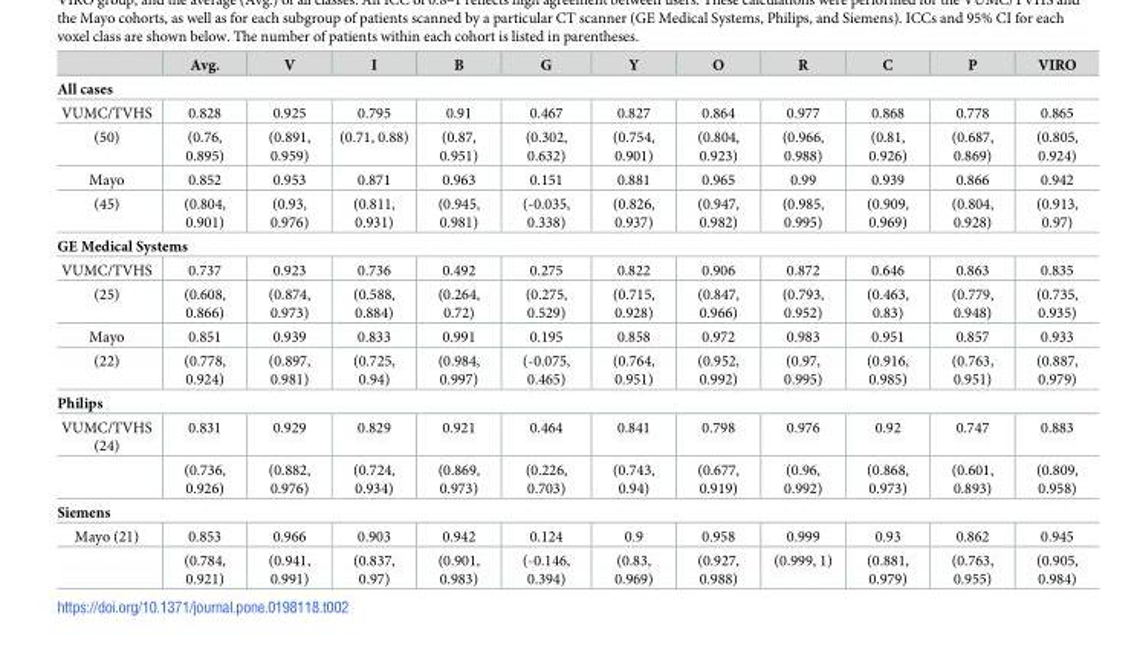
<table><thead><tr><td></td><td>Avg.</td><td>V</td><td>I</td><td>B</td><td>G</td><td>Y</td><td>O</td><td>R</td><td>C</td><td>P</td><td>VIRO</td></tr></thead><tbody><tr><td colspan="12">All cases</td></tr><tr><td>VUMC/TVHS</td><td>0.828</td><td>0.925</td><td>0.795</td><td>0.91</td><td>0.467</td><td>0.827</td><td>0.864</td><td>0.977</td><td>0.868</td><td>0.778</td><td>0.865</td></tr><tr><td>(50)</td><td>(0.76, 0.895)</td><td>(0.891, 0.959)</td><td>(0.71, 0.88)</td><td>(0.87, 0.951)</td><td>(0.302, 0.632)</td><td>(0.754, 0.901)</td><td>(0.804, 0.923)</td><td>(0.966, 0.988)</td><td>(0.81, 0.926)</td><td>(0.687, 0.869)</td><td>(0.805, 0.924)</td></tr><tr><td>Mayo</td><td>0.852</td><td>0.953</td><td>0.871</td><td>0.963</td><td>0.151</td><td>0.881</td><td>0.965</td><td>0.99</td><td>0.939</td><td>0.866</td><td>0.942</td></tr><tr><td>(45)</td><td>(0.804, 0.901)</td><td>(0.93, 0.976)</td><td>(0.811, 0.931)</td><td>(0.945, 0.981)</td><td>(-0.035, 0.338)</td><td>(0.826, 0.937)</td><td>(0.947, 0.982)</td><td>(0.985, 0.995)</td><td>(0.909, 0.969)</td><td>(0.804, 0.928)</td><td>(0.913, 0.97)</td></tr><tr><td colspan="12">GE Medical Systems</td></tr><tr><td>VUMC/TVHS</td><td>0.737</td><td>0.923</td><td>0.736</td><td>0.492</td><td>0.275</td><td>0.822</td><td>0.906</td><td>0.872</td><td>0.646</td><td>0.863</td><td>0.835</td></tr><tr><td>(25)</td><td>(0.608, 0.866)</td><td>(0.874, 0.973)</td><td>(0.588, 0.884)</td><td>(0.264, 0.72)</td><td>(0.275, 0.529)</td><td>(0.715, 0.928)</td><td>(0.847, 0.966)</td><td>(0.793, 0.952)</td><td>(0.463, 0.83)</td><td>(0.779, 0.948)</td><td>(0.735, 0.935)</td></tr><tr><td>Mayo</td><td>0.851</td><td>0.939</td><td>0.833</td><td>0.991</td><td>0.195</td><td>0.858</td><td>0.972</td><td>0.983</td><td>0.951</td><td>0.857</td><td>0.933</td></tr><tr><td>(22)</td><td>(0.778, 0.924)</td><td>(0.897, 0.981)</td><td>(0.725, 0.94)</td><td>(0.984, 0.997)</td><td>(-0.075, 0.465)</td><td>(0.764, 0.951)</td><td>(0.952, 0.992)</td><td>(0.97, 0.995)</td><td>(0.916, 0.985)</td><td>(0.763, 0.951)</td><td>(0.887, 0.979)</td></tr><tr><td colspan="12">Philips</td></tr><tr><td rowspan="2">VUMC/TVHS (24)</td><td>0.831</td><td>0.929</td><td>0.829</td><td>0.921</td><td>0.464</td><td>0.841</td><td>0.798</td><td>0.976</td><td>0.92</td><td>0.747</td><td>0.883</td></tr><tr><td>(0.736, 0.926)</td><td>(0.882, 0.976)</td><td>(0.724, 0.934)</td><td>(0.869, 0.973)</td><td>(0.226, 0.703)</td><td>(0.743, 0.94)</td><td>(0.677, 0.919)</td><td>(0.96, 0.992)</td><td>(0.868, 0.973)</td><td>(0.601, 0.893)</td><td>(0.809, 0.958)</td></tr><tr><td colspan="12">Siemens</td></tr><tr><td rowspan="2">Mayo (21)</td><td>0.853</td><td>0.966</td><td>0.903</td><td>0.942</td><td>0.124</td><td>0.9</td><td>0.958</td><td>0.999</td><td>0.93</td><td>0.862</td><td>0.945</td></tr><tr><td>(0.784, 0.921)</td><td>(0.941, 0.991)</td><td>(0.837, 0.97)</td><td>(0.901, 0.983)</td><td>(-0.146, 0.394)</td><td>(0.83, 0.969)</td><td>(0.927, 0.988)</td><td>(0.999, 1)</td><td>(0.881, 0.979)</td><td>(0.763, 0.955)</td><td>(0.905, 0.984)</td></tr></tbody></table>